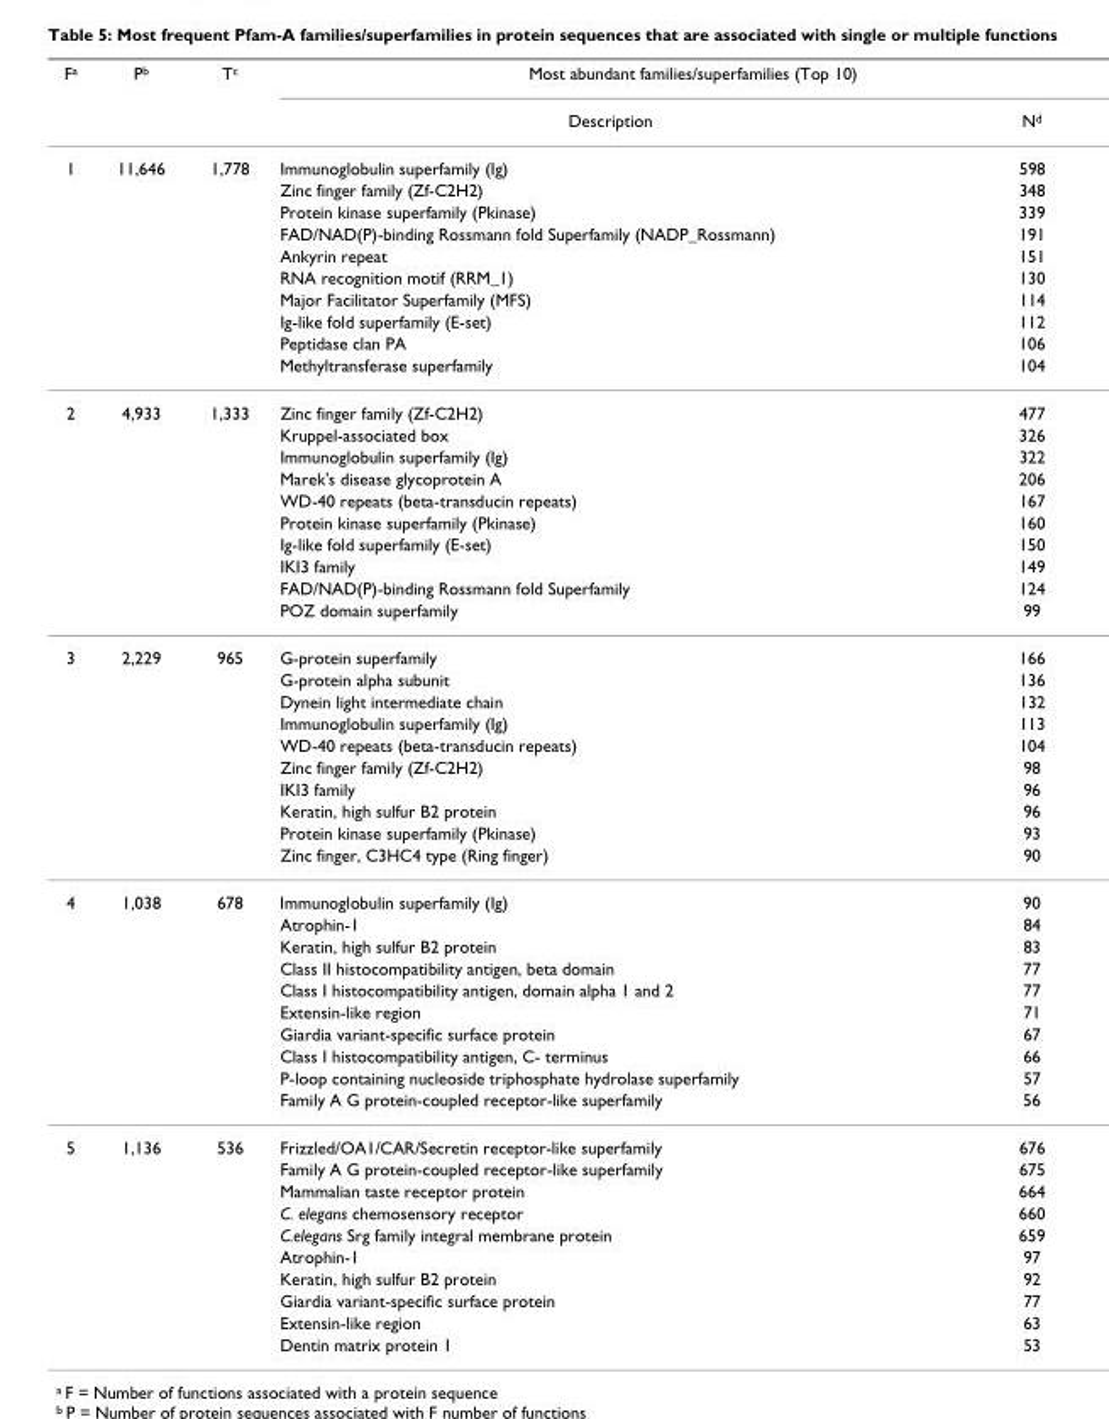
<table><thead><tr><td rowspan="2">F<sup>a</sup></td><td rowspan="2">P<sup>b</sup></td><td rowspan="2">T<sup>c</sup></td><td colspan="2">Most abundant families/superfamilies (Top 10)</td></tr><tr><td>Description</td><td>N<sup>d</sup></td></tr></thead><tbody><tr><td rowspan="10">1</td><td>11,646</td><td>1,778</td><td>Immunoglobulin superfamily (Ig)</td><td>598</td></tr><tr><td></td><td></td><td>Zinc finger family (Zf-C2H2)</td><td>348</td></tr><tr><td></td><td></td><td>Protein kinase superfamily (Pkinase)</td><td>339</td></tr><tr><td></td><td></td><td>FAD/NAD(P)-binding Rossmann fold Superfamily (NADP_Rossmann)</td><td>191</td></tr><tr><td></td><td></td><td>Ankyrin repeat</td><td>151</td></tr><tr><td></td><td></td><td>RNA recognition motif (RRM_1)</td><td>130</td></tr><tr><td></td><td></td><td>Major Facilitator Superfamily (MFS)</td><td>114</td></tr><tr><td></td><td></td><td>Ig-like fold superfamily (E-set)</td><td>112</td></tr><tr><td></td><td></td><td>Peptidase clan PA</td><td>106</td></tr><tr><td></td><td></td><td>Methyltransferase superfamily</td><td>104</td></tr><tr><td rowspan="10">2</td><td>4,933</td><td>1,333</td><td>Zinc finger family (Zf-C2H2)</td><td>477</td></tr><tr><td></td><td></td><td>Kruppel-associated box</td><td>326</td></tr><tr><td></td><td></td><td>Immunoglobulin superfamily (Ig)</td><td>322</td></tr><tr><td></td><td></td><td>Marek&#x27;s disease glycoprotein A</td><td>206</td></tr><tr><td></td><td></td><td>WD-40 repeats (beta-transducin repeats)</td><td>167</td></tr><tr><td></td><td></td><td>Protein kinase superfamily (Pkinase)</td><td>160</td></tr><tr><td></td><td></td><td>Ig-like fold superfamily (E-set)</td><td>150</td></tr><tr><td></td><td></td><td>IKI3 family</td><td>149</td></tr><tr><td></td><td></td><td>FAD/NAD(P)-binding Rossmann fold Superfamily</td><td>124</td></tr><tr><td></td><td></td><td>POZ domain superfamily</td><td>99</td></tr><tr><td rowspan="10">3</td><td>2,229</td><td>965</td><td>G-protein superfamily</td><td>166</td></tr><tr><td></td><td></td><td>G-protein alpha subunit</td><td>136</td></tr><tr><td></td><td></td><td>Dynein light intermediate chain</td><td>132</td></tr><tr><td></td><td></td><td>Immunoglobulin superfamily (Ig)</td><td>113</td></tr><tr><td></td><td></td><td>WD-40 repeats (beta-transducin repeats)</td><td>104</td></tr><tr><td></td><td></td><td>Zinc finger family (Zf-C2H2)</td><td>98</td></tr><tr><td></td><td></td><td>IKI3 family</td><td>96</td></tr><tr><td></td><td></td><td>Keratin, high sulfur B2 protein</td><td>96</td></tr><tr><td></td><td></td><td>Protein kinase superfamily (Pkinase)</td><td>93</td></tr><tr><td></td><td></td><td>Zinc finger, C3HC4 type (Ring finger)</td><td>90</td></tr><tr><td rowspan="10">4</td><td>1,038</td><td>678</td><td>Immunoglobulin superfamily (Ig)</td><td>90</td></tr><tr><td></td><td></td><td>Atrophin-1</td><td>84</td></tr><tr><td></td><td></td><td>Keratin, high sulfur B2 protein</td><td>83</td></tr><tr><td></td><td></td><td>Class II histocompatibility antigen, beta domain</td><td>77</td></tr><tr><td></td><td></td><td>Class I histocompatibility antigen, domain alpha 1 and 2</td><td>77</td></tr><tr><td></td><td></td><td>Extensin-like region</td><td>71</td></tr><tr><td></td><td></td><td>Giardia variant-specific surface protein</td><td>67</td></tr><tr><td></td><td></td><td>Class I histocompatibility antigen, C- terminus</td><td>66</td></tr><tr><td></td><td></td><td>P-loop containing nucleoside triphosphate hydrolase superfamily</td><td>57</td></tr><tr><td></td><td></td><td>Family A G protein-coupled receptor-like superfamily</td><td>56</td></tr><tr><td rowspan="10">5</td><td>1,136</td><td>536</td><td>Frizzled/OA1/CAR/Secretin receptor-like superfamily</td><td>676</td></tr><tr><td></td><td></td><td>Family A G protein-coupled receptor-like superfamily</td><td>675</td></tr><tr><td></td><td></td><td>Mammalian taste receptor protein</td><td>664</td></tr><tr><td></td><td></td><td>C. elegans chemosensory receptor</td><td>660</td></tr><tr><td></td><td></td><td>C.elegans Srg family integral membrane protein</td><td>659</td></tr><tr><td></td><td></td><td>Atrophin-1</td><td>97</td></tr><tr><td></td><td></td><td>Keratin, high sulfur B2 protein</td><td>92</td></tr><tr><td></td><td></td><td>Giardia variant-specific surface protein</td><td>77</td></tr><tr><td></td><td></td><td>Extensin-like region</td><td>63</td></tr><tr><td></td><td></td><td>Dentin matrix protein 1</td><td>53</td></tr></tbody></table>